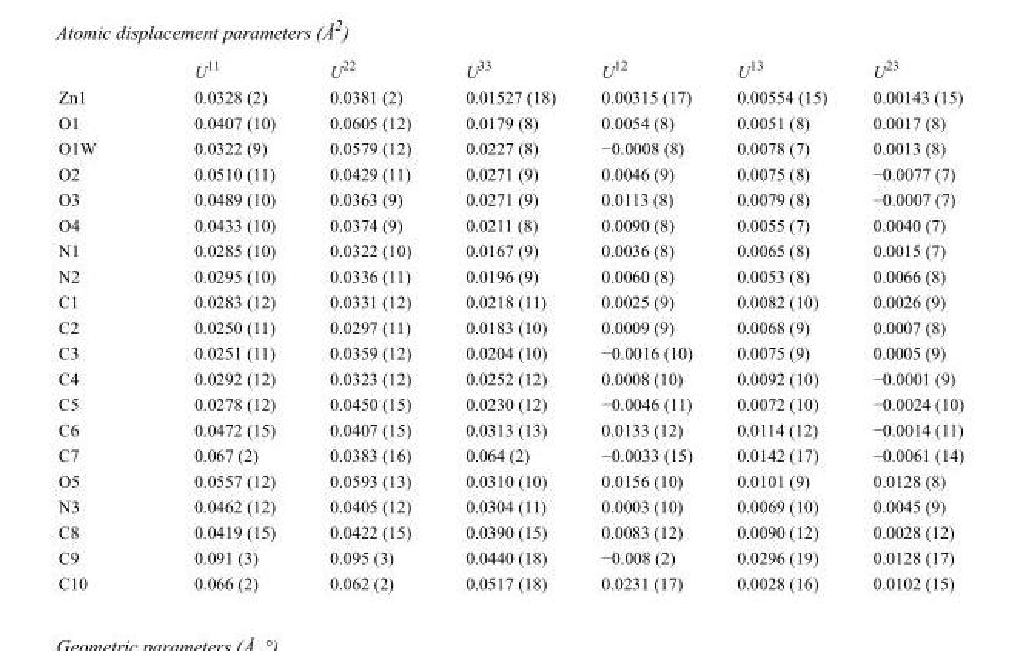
<table><thead><tr><td></td><td>U<sup>11</sup></td><td>U<sup>22</sup></td><td>U<sup>33</sup></td><td>U<sup>12</sup></td><td>U<sup>13</sup></td><td>U<sup>23</sup></td></tr></thead><tbody><tr><td>Zn1</td><td>0.0328 (2)</td><td>0.0381 (2)</td><td>0.01527 (18)</td><td>0.00315 (17)</td><td>0.00554 (15)</td><td>0.00143 (15)</td></tr><tr><td>O1</td><td>0.0407 (10)</td><td>0.0605 (12)</td><td>0.0179 (8)</td><td>0.0054 (8)</td><td>0.0051 (8)</td><td>0.0017 (8)</td></tr><tr><td>O1W</td><td>0.0322 (9)</td><td>0.0579 (12)</td><td>0.0227 (8)</td><td>−0.0008 (8)</td><td>0.0078 (7)</td><td>0.0013 (8)</td></tr><tr><td>O2</td><td>0.0510 (11)</td><td>0.0429 (11)</td><td>0.0271 (9)</td><td>0.0046 (9)</td><td>0.0075 (8)</td><td>−0.0077 (7)</td></tr><tr><td>O3</td><td>0.0489 (10)</td><td>0.0363 (9)</td><td>0.0271 (9)</td><td>0.0113 (8)</td><td>0.0079 (8)</td><td>−0.0007 (7)</td></tr><tr><td>O4</td><td>0.0433 (10)</td><td>0.0374 (9)</td><td>0.0211 (8)</td><td>0.0090 (8)</td><td>0.0055 (7)</td><td>0.0040 (7)</td></tr><tr><td>N1</td><td>0.0285 (10)</td><td>0.0322 (10)</td><td>0.0167 (9)</td><td>0.0036 (8)</td><td>0.0065 (8)</td><td>0.0015 (7)</td></tr><tr><td>N2</td><td>0.0295 (10)</td><td>0.0336 (11)</td><td>0.0196 (9)</td><td>0.0060 (8)</td><td>0.0053 (8)</td><td>0.0066 (8)</td></tr><tr><td>C1</td><td>0.0283 (12)</td><td>0.0331 (12)</td><td>0.0218 (11)</td><td>0.0025 (9)</td><td>0.0082 (10)</td><td>0.0026 (9)</td></tr><tr><td>C2</td><td>0.0250 (11)</td><td>0.0297 (11)</td><td>0.0183 (10)</td><td>0.0009 (9)</td><td>0.0068 (9)</td><td>0.0007 (8)</td></tr><tr><td>C3</td><td>0.0251 (11)</td><td>0.0359 (12)</td><td>0.0204 (10)</td><td>−0.0016 (10)</td><td>0.0075 (9)</td><td>0.0005 (9)</td></tr><tr><td>C4</td><td>0.0292 (12)</td><td>0.0323 (12)</td><td>0.0252 (12)</td><td>0.0008 (10)</td><td>0.0092 (10)</td><td>−0.0001 (9)</td></tr><tr><td>C5</td><td>0.0278 (12)</td><td>0.0450 (15)</td><td>0.0230 (12)</td><td>−0.0046 (11)</td><td>0.0072 (10)</td><td>−0.0024 (10)</td></tr><tr><td>C6</td><td>0.0472 (15)</td><td>0.0407 (15)</td><td>0.0313 (13)</td><td>0.0133 (12)</td><td>0.0114 (12)</td><td>−0.0014 (11)</td></tr><tr><td>C7</td><td>0.067 (2)</td><td>0.0383 (16)</td><td>0.064 (2)</td><td>−0.0033 (15)</td><td>0.0142 (17)</td><td>−0.0061 (14)</td></tr><tr><td>O5</td><td>0.0557 (12)</td><td>0.0593 (13)</td><td>0.0310 (10)</td><td>0.0156 (10)</td><td>0.0101 (9)</td><td>0.0128 (8)</td></tr><tr><td>N3</td><td>0.0462 (12)</td><td>0.0405 (12)</td><td>0.0304 (11)</td><td>0.0003 (10)</td><td>0.0069 (10)</td><td>0.0045 (9)</td></tr><tr><td>C8</td><td>0.0419 (15)</td><td>0.0422 (15)</td><td>0.0390 (15)</td><td>0.0083 (12)</td><td>0.0090 (12)</td><td>0.0028 (12)</td></tr><tr><td>C9</td><td>0.091 (3)</td><td>0.095 (3)</td><td>0.0440 (18)</td><td>−0.008 (2)</td><td>0.0296 (19)</td><td>0.0128 (17)</td></tr><tr><td>C10</td><td>0.066 (2)</td><td>0.062 (2)</td><td>0.0517 (18)</td><td>0.0231 (17)</td><td>0.0028 (16)</td><td>0.0102 (15)</td></tr></tbody></table>